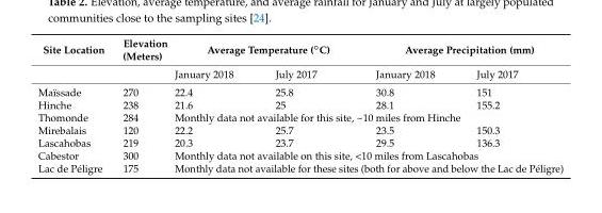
<table><thead><tr><td>Site Location</td><td>Elevation (Meters)</td><td colspan="2">Average Temperature (◦C)</td><td colspan="2">Average Precipitation (mm)</td></tr><tr><td colspan="2"></td><td>January 2018</td><td>July 2017</td><td>January 2018</td><td>July 2017</td></tr></thead><tbody><tr><td>Maïssade</td><td>270</td><td>22.4</td><td>25.8</td><td>30.8</td><td>151</td></tr><tr><td>Hinche</td><td>238</td><td>21.6</td><td>25</td><td>28.1</td><td>155.2</td></tr><tr><td>Thomonde</td><td>284</td><td colspan="4">Monthly data not available for this site, ~10 miles from Hinche</td></tr><tr><td>Mirebalais</td><td>120</td><td>22.2</td><td>25.7</td><td>23.5</td><td>150.3</td></tr><tr><td>Lascahobas</td><td>219</td><td>20.3</td><td>23.7</td><td>29.5</td><td>136.3</td></tr><tr><td>Cabestor</td><td>300</td><td colspan="4">Monthly data not available on this site, &lt;10 miles from Lascahobas</td></tr><tr><td>Lac de Péligre</td><td>175</td><td colspan="4">Monthly data not available for these sites (both for above and below the Lac de Péligre)</td></tr></tbody></table>